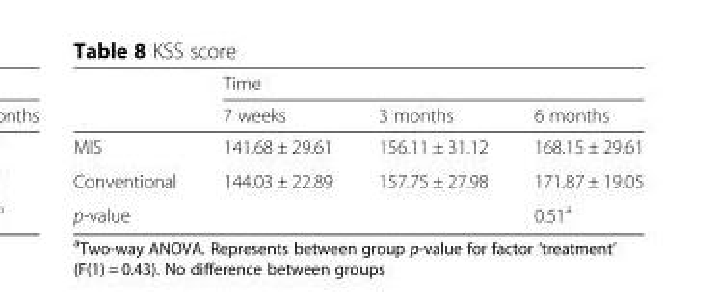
<table><thead><tr><td rowspan="2"></td><td colspan="3">Time</td></tr><tr><td>7 weeks</td><td>3 months</td><td>6 months</td></tr></thead><tbody><tr><td>MIS</td><td>141.68 ± 29.61</td><td>156.11 ± 31.12</td><td>168.15 ± 29.61</td></tr><tr><td>Conventional</td><td>144.03 ± 22.89</td><td>157.75 ± 27.98</td><td>171.87 ± 19.05</td></tr><tr><td>p-value</td><td></td><td></td><td>0.51<sup>a</sup></td></tr></tbody></table>